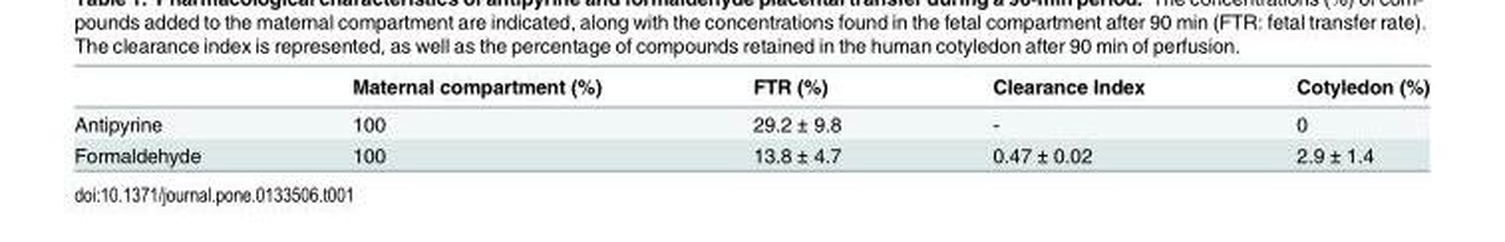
<table><thead><tr><td></td><td>Maternal compartment (%)</td><td>FTR (%)</td><td>Clearance Index</td><td>Cotyledon (%)</td></tr></thead><tbody><tr><td>Antipyrine</td><td>100</td><td>29.2 ± 9.8</td><td>-</td><td>0</td></tr><tr><td>Formaldehyde</td><td>100</td><td>13.8 ± 4.7</td><td>0.47 ± 0.02</td><td>2.9 ± 1.4</td></tr></tbody></table>